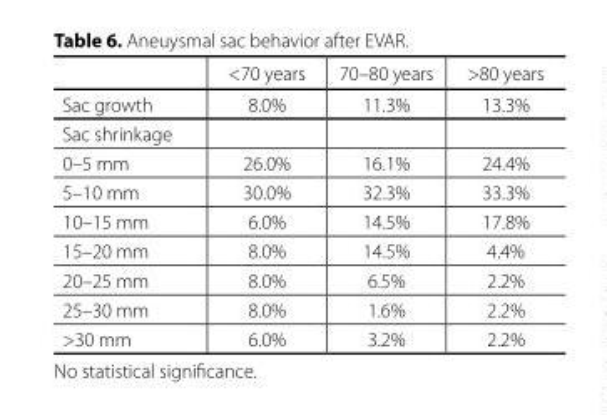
<table><thead><tr><td></td><td>&lt;70 years</td><td>70–80 years</td><td>&gt;80 years</td></tr></thead><tbody><tr><td>Sac growth</td><td>8.0%</td><td>11.3%</td><td>13.3%</td></tr><tr><td colspan="4">Sac shrinkage</td></tr><tr><td>0–5 mm</td><td>26.0%</td><td>16.1%</td><td>24.4%</td></tr><tr><td>5–10 mm</td><td>30.0%</td><td>32.3%</td><td>33.3%</td></tr><tr><td>10–15 mm</td><td>6.0%</td><td>14.5%</td><td>17.8%</td></tr><tr><td>15–20 mm</td><td>8.0%</td><td>14.5%</td><td>4.4%</td></tr><tr><td>20–25 mm</td><td>8.0%</td><td>6.5%</td><td>2.2%</td></tr><tr><td>25–30 mm</td><td>8.0%</td><td>1.6%</td><td>2.2%</td></tr><tr><td>&gt;30 mm</td><td>6.0%</td><td>3.2%</td><td>2.2%</td></tr></tbody></table>